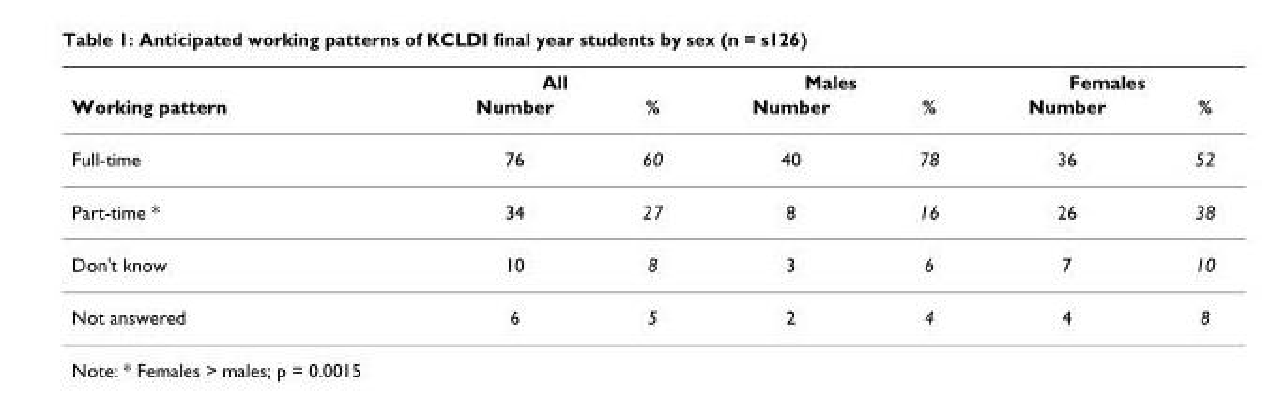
<table><thead><tr><td rowspan="2">Working pattern</td><td colspan="2">All</td><td colspan="2">Males</td><td colspan="2">Females</td></tr><tr><td>Number</td><td>%</td><td>Number</td><td>%</td><td>Number</td><td>%</td></tr></thead><tbody><tr><td>Full-time</td><td>76</td><td>60</td><td>40</td><td>78</td><td>36</td><td>52</td></tr><tr><td>Part-time *</td><td>34</td><td>27</td><td>8</td><td>16</td><td>26</td><td>38</td></tr><tr><td>Don&#x27;t know</td><td>10</td><td>8</td><td>3</td><td>6</td><td>7</td><td>10</td></tr><tr><td>Not answered</td><td>6</td><td>5</td><td>2</td><td>4</td><td>4</td><td>8</td></tr></tbody></table>